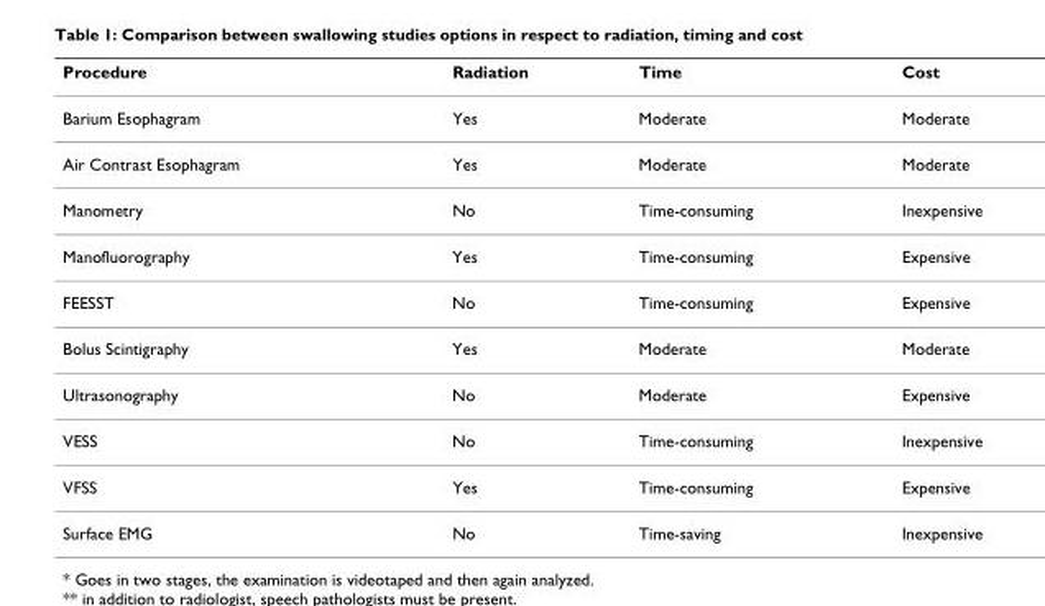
<table><thead><tr><td>Procedure</td><td>Radiation</td><td>Time</td><td>Cost</td></tr></thead><tbody><tr><td>Barium Esophagram</td><td>Yes</td><td>Moderate</td><td>Moderate</td></tr><tr><td>Air Contrast Esophagram</td><td>Yes</td><td>Moderate</td><td>Moderate</td></tr><tr><td>Manometry</td><td>No</td><td>Time-consuming</td><td>Inexpensive</td></tr><tr><td>Manofluorography</td><td>Yes</td><td>Time-consuming</td><td>Expensive</td></tr><tr><td>FEESST</td><td>No</td><td>Time-consuming</td><td>Expensive</td></tr><tr><td>Bolus Scintigraphy</td><td>Yes</td><td>Moderate</td><td>Moderate</td></tr><tr><td>Ultrasonography</td><td>No</td><td>Moderate</td><td>Expensive</td></tr><tr><td>VESS</td><td>No</td><td>Time-consuming</td><td>Inexpensive</td></tr><tr><td>VFSS</td><td>Yes</td><td>Time-consuming</td><td>Expensive</td></tr><tr><td>Surface EMG</td><td>No</td><td>Time-saving</td><td>Inexpensive</td></tr></tbody></table>